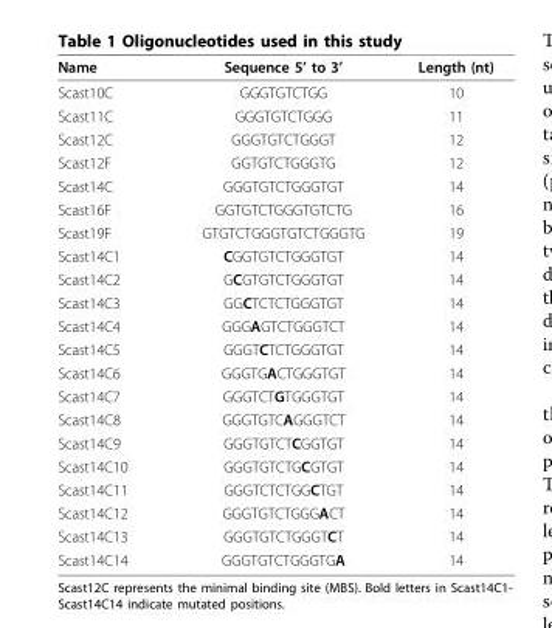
<table><thead><tr><td>Name</td><td>Sequence 5’ to 3’</td><td>Length (nt)</td></tr></thead><tbody><tr><td>Scast10C</td><td>GGGTGTCTGG</td><td>10</td></tr><tr><td>Scast11C</td><td>GGGTGTCTGGG</td><td>11</td></tr><tr><td>Scast12C</td><td>GGGTGTCTGGGT</td><td>12</td></tr><tr><td>Scast12F</td><td>GGTGTCTGGGTG</td><td>12</td></tr><tr><td>Scast14C</td><td>GGGTGTCTGGGTGT</td><td>14</td></tr><tr><td>Scast16F</td><td>GGTGTCTGGGTGTCTG</td><td>16</td></tr><tr><td>Scast19F</td><td>GTGTCTGGGTGTCTGGGTG</td><td>19</td></tr><tr><td>Scast14C1</td><td>CGGTGTCTGGGTGT</td><td>14</td></tr><tr><td>Scast14C2</td><td>GCGTGTCTGGGTGT</td><td>14</td></tr><tr><td>Scast14C3</td><td>GGCTCTCTGGGTGT</td><td>14</td></tr><tr><td>Scast14C4</td><td>GGGAGTCTGGGTCT</td><td>14</td></tr><tr><td>Scast14C5</td><td>GGGTCTCTGGGTGT</td><td>14</td></tr><tr><td>Scast14C6</td><td>GGGTGACTGGGTGT</td><td>14</td></tr><tr><td>Scast14C7</td><td>GGGTCTGTGGGTGT</td><td>14</td></tr><tr><td>Scast14C8</td><td>GGGTGTCAGGGTCT</td><td>14</td></tr><tr><td>Scast14C9</td><td>GGGTGTCTCGGTGT</td><td>14</td></tr><tr><td>Scast14C10</td><td>GGGTGTCTGCGTGT</td><td>14</td></tr><tr><td>Scast14C11</td><td>GGGTCTCTGGCTGT</td><td>14</td></tr><tr><td>Scast14C12</td><td>GGGTGTCTGGGACT</td><td>14</td></tr><tr><td>Scast14C13</td><td>GGGTGTCTGGGTCT</td><td>14</td></tr><tr><td>Scast14C14</td><td>GGGTGTCTGGGTGA</td><td>14</td></tr></tbody></table>